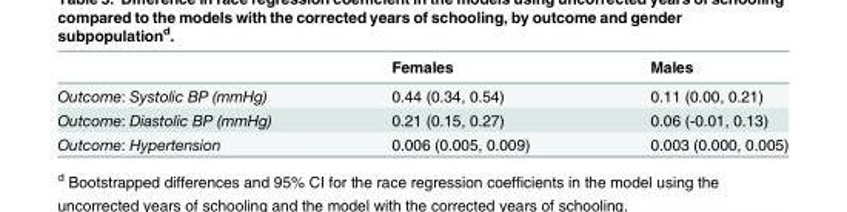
<table><thead><tr><td></td><td>Females</td><td>Males</td></tr></thead><tbody><tr><td>Outcome: Systolic BP (mmHg)</td><td>0.44 (0.34, 0.54)</td><td>0.11 (0.00, 0.21)</td></tr><tr><td>Outcome: Diastolic BP (mmHg)</td><td>0.21 (0.15, 0.27)</td><td>0.06 (-0.01, 0.13)</td></tr><tr><td>Outcome: Hypertension</td><td>0.006 (0.005, 0.009)</td><td>0.003 (0.000, 0.005)</td></tr></tbody></table>